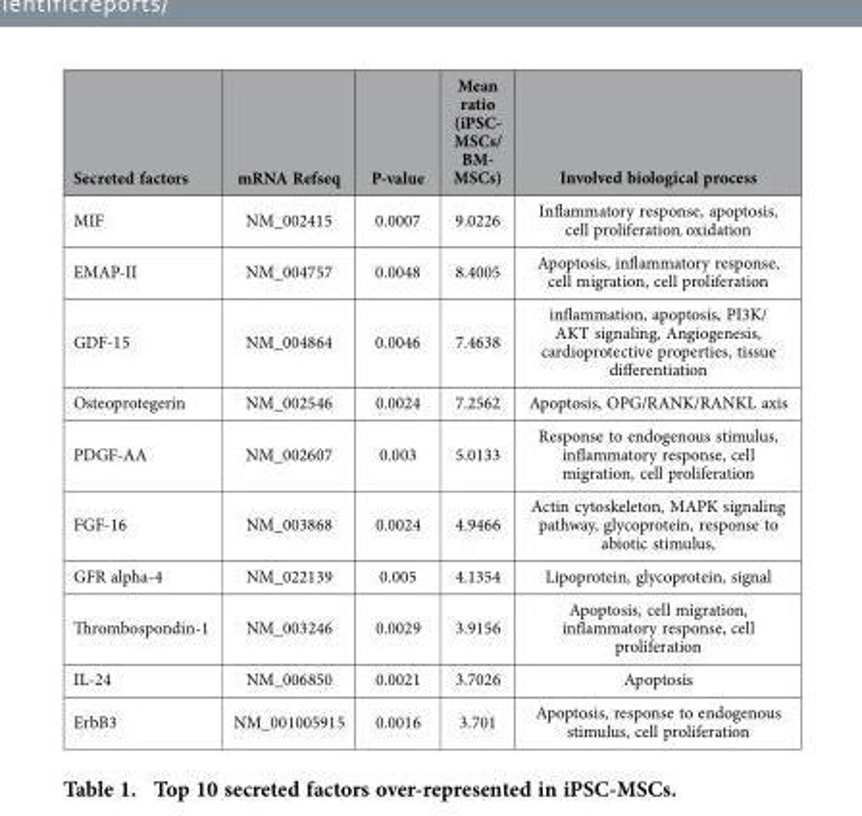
<table><thead><tr><td>Secreted factors</td><td>mRNA Refseq</td><td>P-value</td><td>Mean ratio (iPSC- MSCs/ BM- MSCs)</td><td>Involved biological process</td></tr></thead><tbody><tr><td>MIF</td><td>NM_002415</td><td>0.0007</td><td>9.0226</td><td>Inflammatory response, apoptosis, cell proliferation, oxidation</td></tr><tr><td>EMAP-II</td><td>NM_004757</td><td>0.0048</td><td>8.4005</td><td>Apoptosis, inflammatory response, cell migration, cell proliferation</td></tr><tr><td>GDF-15</td><td>NM_004864</td><td>0.0046</td><td>7.4638</td><td>inflammation, apoptosis, PI3K/ AKT signaling, Angiogenesis, cardioprotective properties, tissue differentiation</td></tr><tr><td>Osteoprotegerin</td><td>NM_002546</td><td>0.0024</td><td>7.2562</td><td>Apoptosis, OPG/RANK/RANKL axis</td></tr><tr><td>PDGF-AA</td><td>NM_002607</td><td>0.003</td><td>5.0133</td><td>Response to endogenous stimulus, inflammatory response, cell migration, cell proliferation</td></tr><tr><td>FGF-16</td><td>NM_003868</td><td>0.0024</td><td>4.9466</td><td>Actin cytoskeleton, MAPK signaling pathway, glycoprotein, response to abiotic stimulus,</td></tr><tr><td>GFR alpha-4</td><td>NM_022139</td><td>0.005</td><td>4.1354</td><td>Lipoprotein, glycoprotein, signal</td></tr><tr><td>Thrombospondin-1</td><td>NM_003246</td><td>0.0029</td><td>3.9156</td><td>Apoptosis, cell migration, inflammatory response, cell proliferation</td></tr><tr><td>IL-24</td><td>NM_006850</td><td>0.0021</td><td>3.7026</td><td>Apoptosis</td></tr><tr><td>ErbB3</td><td>NM_001005915</td><td>0.0016</td><td>3.701</td><td>Apoptosis, response to endogenous stimulus, cell proliferation</td></tr></tbody></table>